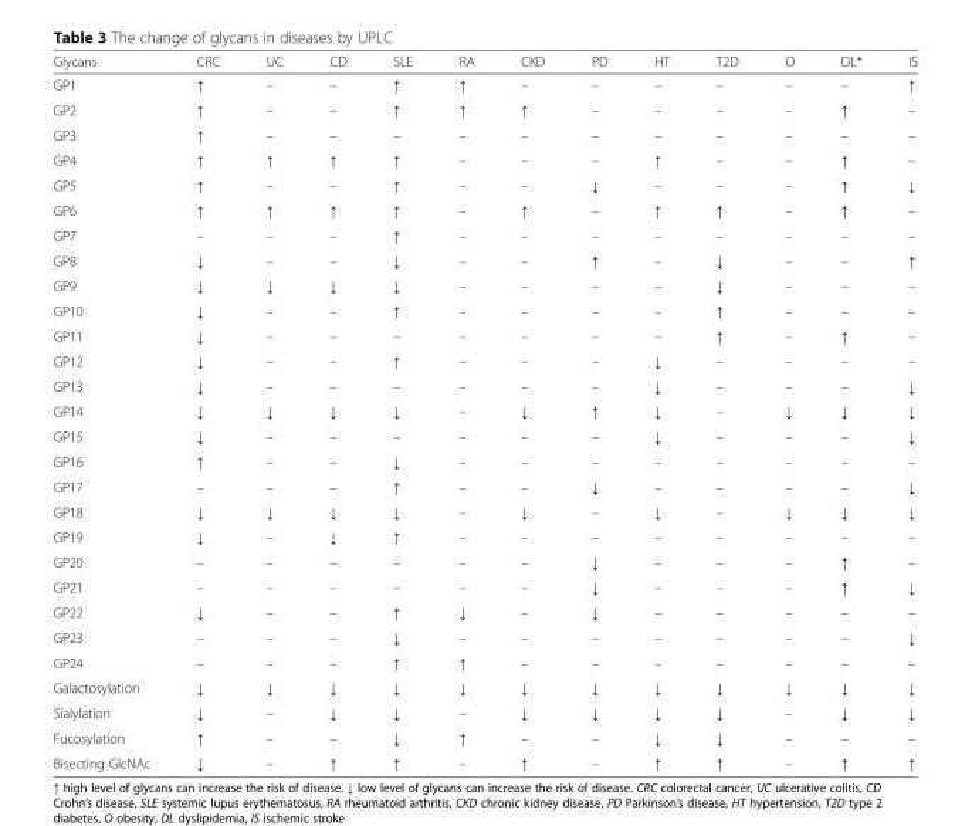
<table><thead><tr><td>Glycans</td><td>CRC</td><td>UC</td><td>CD</td><td>SLE</td><td>RA</td><td>CKD</td><td>PD</td><td>HT</td><td>T2D</td><td>O</td><td>DL*</td><td>IS</td></tr></thead><tbody><tr><td>GP1</td><td>↑</td><td>–</td><td>–</td><td>↑</td><td>↑</td><td>–</td><td>–</td><td>–</td><td>–</td><td>–</td><td>–</td><td>↑</td></tr><tr><td>GP2</td><td>↑</td><td>–</td><td>–</td><td>↑</td><td>↑</td><td>↑</td><td>–</td><td>–</td><td>–</td><td>–</td><td>↑</td><td>–</td></tr><tr><td>GP3</td><td>↑</td><td>–</td><td>–</td><td>–</td><td>–</td><td>–</td><td>–</td><td>–</td><td>–</td><td>–</td><td>–</td><td>–</td></tr><tr><td>GP4</td><td>↑</td><td>↑</td><td>↑</td><td>↑</td><td>–</td><td>–</td><td>–</td><td>↑</td><td>–</td><td>–</td><td>↑</td><td>–</td></tr><tr><td>GP5</td><td>↑</td><td>–</td><td>–</td><td>↑</td><td>–</td><td>–</td><td>↓</td><td>–</td><td>–</td><td>–</td><td>↑</td><td>↓</td></tr><tr><td>GP6</td><td>↑</td><td>↑</td><td>↑</td><td>↑</td><td>–</td><td>↑</td><td>–</td><td>↑</td><td>↑</td><td>–</td><td>↑</td><td>–</td></tr><tr><td>GP7</td><td>–</td><td>–</td><td>–</td><td>↑</td><td>–</td><td>–</td><td>–</td><td>–</td><td>–</td><td>–</td><td>–</td><td>–</td></tr><tr><td>GP8</td><td>↓</td><td>–</td><td>–</td><td>↓</td><td>–</td><td>–</td><td>↑</td><td>–</td><td>↓</td><td>–</td><td>–</td><td>↑</td></tr><tr><td>GP9</td><td>↓</td><td>↓</td><td>↓</td><td>↓</td><td>–</td><td>–</td><td>–</td><td>–</td><td>↓</td><td>–</td><td>–</td><td>–</td></tr><tr><td>GP10</td><td>↓</td><td>–</td><td>–</td><td>↑</td><td>–</td><td>–</td><td>–</td><td>–</td><td>↑</td><td>–</td><td>–</td><td>–</td></tr><tr><td>GP11</td><td>↓</td><td>–</td><td>–</td><td>–</td><td>–</td><td>–</td><td>–</td><td>–</td><td>↑</td><td>–</td><td>↑</td><td>–</td></tr><tr><td>GP12</td><td>↓</td><td>–</td><td>–</td><td>↑</td><td>–</td><td>–</td><td>–</td><td>↓</td><td>–</td><td>–</td><td>–</td><td>–</td></tr><tr><td>GP13</td><td>↓</td><td>–</td><td>–</td><td>–</td><td>–</td><td>–</td><td>–</td><td>↓</td><td>–</td><td>–</td><td>–</td><td>↓</td></tr><tr><td>GP14</td><td>↓</td><td>↓</td><td>↓</td><td>↓</td><td>–</td><td>↓</td><td>↑</td><td>↓</td><td>–</td><td>↓</td><td>↓</td><td>↓</td></tr><tr><td>GP15</td><td>↓</td><td>–</td><td>–</td><td>–</td><td>–</td><td>–</td><td>–</td><td>↓</td><td>–</td><td>–</td><td>–</td><td>↓</td></tr><tr><td>GP16</td><td>↑</td><td>–</td><td>–</td><td>↓</td><td>–</td><td>–</td><td>–</td><td>–</td><td>–</td><td>–</td><td>–</td><td>–</td></tr><tr><td>GP17</td><td>–</td><td>–</td><td>–</td><td>↑</td><td>–</td><td>–</td><td>↓</td><td>–</td><td>–</td><td>–</td><td>–</td><td>↓</td></tr><tr><td>GP18</td><td>↓</td><td>↓</td><td>↓</td><td>↓</td><td>–</td><td>↓</td><td>–</td><td>↓</td><td>–</td><td>↓</td><td>↓</td><td>↓</td></tr><tr><td>GP19</td><td>↓</td><td>–</td><td>↓</td><td>↑</td><td>–</td><td>–</td><td>–</td><td>–</td><td>–</td><td>–</td><td>–</td><td>–</td></tr><tr><td>GP20</td><td>–</td><td>–</td><td>–</td><td>–</td><td>–</td><td>–</td><td>↓</td><td>–</td><td>–</td><td>–</td><td>↑</td><td>–</td></tr><tr><td>GP21</td><td>–</td><td>–</td><td>–</td><td>–</td><td>–</td><td>–</td><td>↓</td><td>–</td><td>–</td><td>–</td><td>↑</td><td>↓</td></tr><tr><td>GP22</td><td>↓</td><td>–</td><td>–</td><td>↑</td><td>↓</td><td>–</td><td>↓</td><td>–</td><td>–</td><td>–</td><td>–</td><td>–</td></tr><tr><td>GP23</td><td>–</td><td>–</td><td>–</td><td>↓</td><td>–</td><td>–</td><td>–</td><td>–</td><td>–</td><td>–</td><td>–</td><td>↓</td></tr><tr><td>GP24</td><td>–</td><td>–</td><td>–</td><td>↑</td><td>↑</td><td>–</td><td>–</td><td>–</td><td>–</td><td>–</td><td>–</td><td>–</td></tr><tr><td>Galactosylation</td><td>↓</td><td>↓</td><td>↓</td><td>↓</td><td>↓</td><td>↓</td><td>↓</td><td>↓</td><td>↓</td><td>↓</td><td>↓</td><td>↓</td></tr><tr><td>Sialylation</td><td>↓</td><td>–</td><td>↓</td><td>↓</td><td>–</td><td>↓</td><td>↓</td><td>↓</td><td>↓</td><td>–</td><td>↓</td><td>↓</td></tr><tr><td>Fucosylation</td><td>↑</td><td>–</td><td>–</td><td>↓</td><td>↑</td><td>–</td><td>–</td><td>↓</td><td>↓</td><td>–</td><td>–</td><td>–</td></tr><tr><td>Bisecting GlcNAc</td><td>↓</td><td>–</td><td>↑</td><td>↑</td><td>–</td><td>↑</td><td>–</td><td>↑</td><td>↑</td><td>–</td><td>↑</td><td>↑</td></tr></tbody></table>